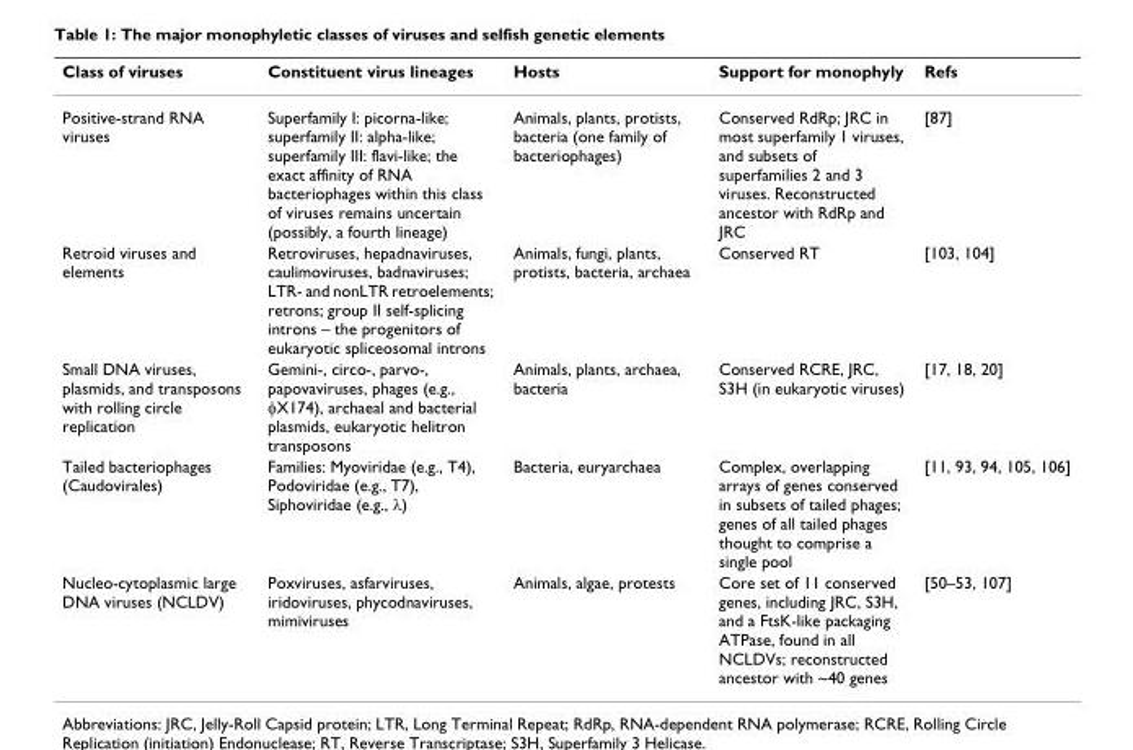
<table><thead><tr><td>Class of viruses</td><td>Constituent virus lineages</td><td>Hosts</td><td>Support for monophyly</td><td>Refs</td></tr></thead><tbody><tr><td>Positive-strand RNA viruses</td><td>Superfamily I: picorna-like; superfamily II: alpha-like; superfamily III: flavi-like; the exact affinity of RNA bacteriophages within this class of viruses remains uncertain (possibly, a fourth lineage)</td><td>Animals, plants, protists, bacteria (one family of bacteriophages)</td><td>Conserved RdRp; JRC in most superfamily 1 viruses, and subsets of superfamilies 2 and 3 viruses. Reconstructed ancestor with RdRp and JRC</td><td>[87]</td></tr><tr><td>Retroid viruses and elements</td><td>Retroviruses, hepadnaviruses, caulimoviruses, badnaviruses; LTR- and nonLTR retroelements; retrons; group II self-splicing introns – the progenitors of eukaryotic spliceosomal introns</td><td>Animals, fungi, plants, protists, bacteria, archaea</td><td>Conserved RT</td><td>[103, 104]</td></tr><tr><td>Small DNA viruses, plasmids, and transposons with rolling circle replication</td><td>Gemini-, circo-, parvo-, papovaviruses, phages (e.g., φX174), archaeal and bacterial plasmids, eukaryotic helitron transposons</td><td>Animals, plants, archaea, bacteria</td><td>Conserved RCRE, JRC, S3H (in eukaryotic viruses)</td><td>[17, 18, 20]</td></tr><tr><td>Tailed bacteriophages (Caudovirales)</td><td>Families: Myoviridae (e.g., T4), Podoviridae (e.g., T7), Siphoviridae (e.g., λ)</td><td>Bacteria, euryarchaea</td><td>Complex, overlapping arrays of genes conserved in subsets of tailed phages; genes of all tailed phages thought to comprise a single pool</td><td>[11, 93, 94, 105, 106]</td></tr><tr><td>Nucleo-cytoplasmic large DNA viruses (NCLDV)</td><td>Poxviruses, asfarviruses, iridoviruses, phycodnaviruses, mimiviruses</td><td>Animals, algae, protests</td><td>Core set of 11 conserved genes, including JRC, S3H, and a FtsK-like packaging ATPase, found in all NCLDVs; reconstructed ancestor with ~40 genes</td><td>[50–53, 107]</td></tr></tbody></table>